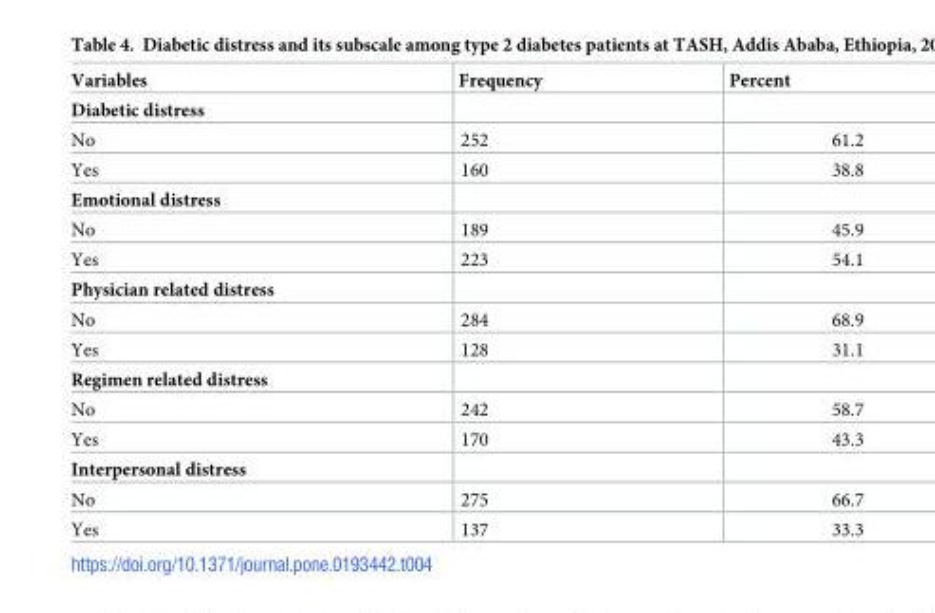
<table><thead><tr><td>Variables</td><td>Frequency</td><td>Percent</td></tr></thead><tbody><tr><td colspan="3">Diabetic distress</td></tr><tr><td>No</td><td>252</td><td>61.2</td></tr><tr><td>Yes</td><td>160</td><td>38.8</td></tr><tr><td colspan="3">Emotional distress</td></tr><tr><td>No</td><td>189</td><td>45.9</td></tr><tr><td>Yes</td><td>223</td><td>54.1</td></tr><tr><td colspan="3">Physician related distress</td></tr><tr><td>No</td><td>284</td><td>68.9</td></tr><tr><td>Yes</td><td>128</td><td>31.1</td></tr><tr><td colspan="3">Regimen related distress</td></tr><tr><td>No</td><td>242</td><td>58.7</td></tr><tr><td>Yes</td><td>170</td><td>43.3</td></tr><tr><td colspan="3">Interpersonal distress</td></tr><tr><td>No</td><td>275</td><td>66.7</td></tr><tr><td>Yes</td><td>137</td><td>33.3</td></tr></tbody></table>